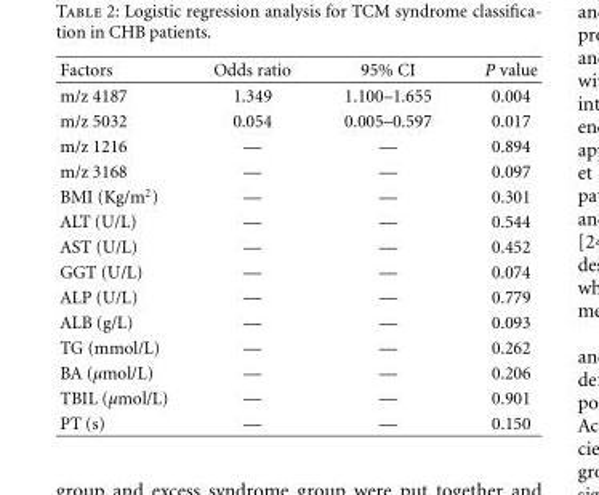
<table><thead><tr><td>Factors</td><td>Odds ratio</td><td>95% CI</td><td>P value</td></tr></thead><tbody><tr><td>m/z 4187</td><td>1.349</td><td>1.100–1.655</td><td>0.004</td></tr><tr><td>m/z 5032</td><td>0.054</td><td>0.005–0.597</td><td>0.017</td></tr><tr><td>m/z 1216</td><td>—</td><td>—</td><td>0.894</td></tr><tr><td>m/z 3168</td><td>—</td><td>—</td><td>0.097</td></tr><tr><td>BMI (Kg/m<sup>2</sup>)</td><td>—</td><td>—</td><td>0.301</td></tr><tr><td>ALT (U/L)</td><td>—</td><td>—</td><td>0.544</td></tr><tr><td>AST (U/L)</td><td>—</td><td>—</td><td>0.452</td></tr><tr><td>GGT (U/L)</td><td>—</td><td>—</td><td>0.074</td></tr><tr><td>ALP (U/L)</td><td>—</td><td>—</td><td>0.779</td></tr><tr><td>ALB (g/L)</td><td>—</td><td>—</td><td>0.093</td></tr><tr><td>TG (mmol/L)</td><td>—</td><td>—</td><td>0.262</td></tr><tr><td>BA (μmol/L)</td><td>—</td><td>—</td><td>0.206</td></tr><tr><td>TBIL (μmol/L)</td><td>—</td><td>—</td><td>0.901</td></tr><tr><td>PT (s)</td><td>—</td><td>—</td><td>0.150</td></tr></tbody></table>